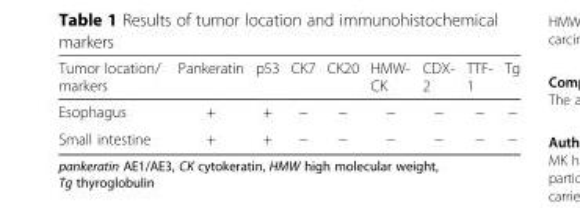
<table><thead><tr><td>Tumor location/ markers</td><td>Pankeratin</td><td>p53</td><td>CK7</td><td>CK20</td><td>HMW- CK</td><td>CDX- 2</td><td>TTF- 1</td><td>Tg</td></tr></thead><tbody><tr><td>Esophagus</td><td>+</td><td>+</td><td>−</td><td>−</td><td>−</td><td>−</td><td>−</td><td>−</td></tr><tr><td>Small intestine</td><td>+</td><td>+</td><td>−</td><td>−</td><td>−</td><td>−</td><td>−</td><td>−</td></tr></tbody></table>